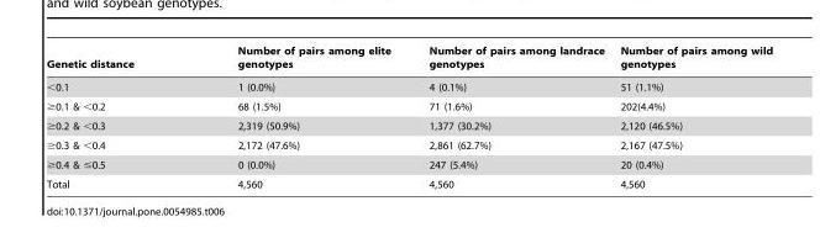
<table><thead><tr><td>Genetic distance</td><td>Number of pairs among elite genotypes</td><td>Number of pairs among landrace genotypes</td><td>Number of pairs among wild genotypes</td></tr></thead><tbody><tr><td>&lt;0.1</td><td>1 (0.0%)</td><td>4 (0.1%)</td><td>51 (1.1%)</td></tr><tr><td>≥0.1 &amp; &lt;0.2</td><td>68 (1.5%)</td><td>71 (1.6%)</td><td>202(4.4%)</td></tr><tr><td>≥0.2 &amp; &lt;0.3</td><td>2,319 (50.9%)</td><td>1,377 (30.2%)</td><td>2,120 (46.5%)</td></tr><tr><td>≥0.3 &amp; &lt;0.4</td><td>2,172 (47.6%)</td><td>2,861 (62.7%)</td><td>2,167 (47.5%)</td></tr><tr><td>≥0.4 &amp; ≤0.5</td><td>0 (0.0%)</td><td>247 (5.4%)</td><td>20 (0.4%)</td></tr><tr><td>Total</td><td>4,560</td><td>4,560</td><td>4,560</td></tr></tbody></table>